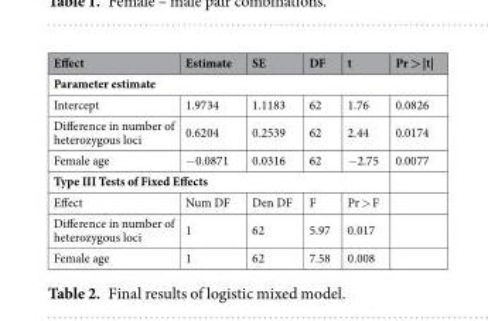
<table><thead><tr><td>Effect</td><td>Estimate</td><td>SE</td><td>DF</td><td>t</td><td>Pr &gt; |t|</td></tr></thead><tbody><tr><td colspan="6">Parameter estimate</td></tr><tr><td>Intercept</td><td>1.9734</td><td>1.1183</td><td>62</td><td>1.76</td><td>0.0826</td></tr><tr><td>Difference in number of heterozygous loci</td><td>0.6204</td><td>0.2539</td><td>62</td><td>2.44</td><td>0.0174</td></tr><tr><td>Female age</td><td>−0.0871</td><td>0.0316</td><td>62</td><td>−2.75</td><td>0.0077</td></tr><tr><td colspan="6">Type III Tests of Fixed Effects</td></tr><tr><td>Effect</td><td>Num DF</td><td>Den DF</td><td>F</td><td>Pr &gt; F</td><td></td></tr><tr><td>Difference in number of heterozygous loci</td><td>1</td><td>62</td><td>5.97</td><td>0.017</td><td></td></tr><tr><td>Female age</td><td>1</td><td>62</td><td>7.58</td><td>0.008</td><td></td></tr></tbody></table>